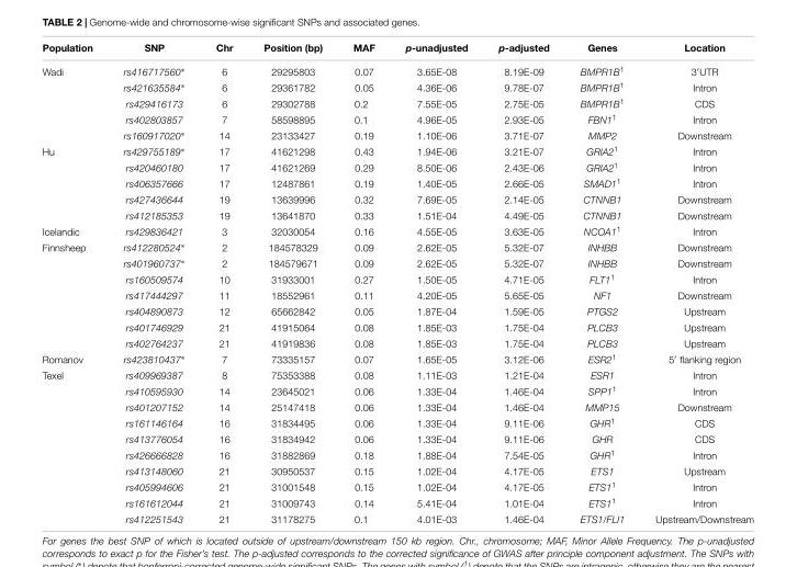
<table><thead><tr><td>Population</td><td>SNP</td><td>Chr</td><td>Position (bp)</td><td>MAF</td><td>p-unadjusted</td><td>p-adjusted</td><td>Genes</td><td>Location</td></tr></thead><tbody><tr><td rowspan="5">Wadi</td><td>rs416717560∗</td><td>6</td><td>29295803</td><td>0.07</td><td>3.65E-08</td><td>8.19E-09</td><td>BMPR1B<sup>1</sup></td><td>3′UTR</td></tr><tr><td>rs421635584∗</td><td>6</td><td>29361782</td><td>0.05</td><td>4.36E-06</td><td>9.78E-07</td><td>BMPR1B<sup>1</sup></td><td>Intron</td></tr><tr><td>rs429416173</td><td>6</td><td>29302788</td><td>0.2</td><td>7.55E-05</td><td>2.75E-05</td><td>BMPR1B<sup>1</sup></td><td>CDS</td></tr><tr><td>rs402803857</td><td>7</td><td>58598895</td><td>0.1</td><td>4.96E-05</td><td>2.93E-05</td><td>FBN1<sup>1</sup></td><td>Intron</td></tr><tr><td>rs160917020∗</td><td>14</td><td>23133427</td><td>0.19</td><td>1.10E-06</td><td>3.71E-07</td><td>MMP2</td><td>Downstream</td></tr><tr><td rowspan="5">Hu</td><td>rs429755189∗</td><td>17</td><td>41621298</td><td>0.43</td><td>1.94E-06</td><td>3.21E-07</td><td>GRIA2<sup>1</sup></td><td>Intron</td></tr><tr><td>rs420460180</td><td>17</td><td>41621269</td><td>0.29</td><td>8.50E-06</td><td>2.43E-06</td><td>GRIA2<sup>1</sup></td><td>Intron</td></tr><tr><td>rs406357666</td><td>17</td><td>12487861</td><td>0.19</td><td>1.40E-05</td><td>2.66E-05</td><td>SMAD1<sup>1</sup></td><td>Intron</td></tr><tr><td>rs427436644</td><td>19</td><td>13639996</td><td>0.32</td><td>7.69E-05</td><td>2.14E-05</td><td>CTNNB1</td><td>Downstream</td></tr><tr><td>rs412185353</td><td>19</td><td>13641870</td><td>0.33</td><td>1.51E-04</td><td>4.49E-05</td><td>CTNNB1</td><td>Downstream</td></tr><tr><td>Icelandic</td><td>rs429836421</td><td>3</td><td>32030054</td><td>0.16</td><td>4.55E-05</td><td>3.63E-05</td><td>NCOA1<sup>1</sup></td><td>Intron</td></tr><tr><td rowspan="7">Finnsheep</td><td>rs412280524∗</td><td>2</td><td>184578329</td><td>0.09</td><td>2.62E-05</td><td>5.32E-07</td><td>INHBB</td><td>Downstream</td></tr><tr><td>rs401960737∗</td><td>2</td><td>184579671</td><td>0.09</td><td>2.62E-05</td><td>5.32E-07</td><td>INHBB</td><td>Downstream</td></tr><tr><td>rs160509574</td><td>10</td><td>31933001</td><td>0.27</td><td>1.50E-05</td><td>4.71E-05</td><td>FLT1<sup>1</sup></td><td>Intron</td></tr><tr><td>rs417444297</td><td>11</td><td>18552961</td><td>0.11</td><td>4.20E-05</td><td>5.65E-05</td><td>NF1</td><td>Downstream</td></tr><tr><td>rs404890873</td><td>12</td><td>65662842</td><td>0.05</td><td>1.87E-04</td><td>1.59E-05</td><td>PTGS2</td><td>Upstream</td></tr><tr><td>rs401746929</td><td>21</td><td>41915064</td><td>0.08</td><td>1.85E-03</td><td>1.75E-04</td><td>PLCB3</td><td>Upstream</td></tr><tr><td>rs402764237</td><td>21</td><td>41919836</td><td>0.08</td><td>1.85E-03</td><td>1.75E-04</td><td>PLCB3</td><td>Upstream</td></tr><tr><td>Romanov</td><td>rs423810437∗</td><td>7</td><td>73335157</td><td>0.07</td><td>1.65E-05</td><td>3.12E-06</td><td>ESR2<sup>1</sup></td><td>5′ flanking region</td></tr><tr><td rowspan="10">Texel</td><td>rs409969387</td><td>8</td><td>75353388</td><td>0.08</td><td>1.11E-03</td><td>1.21E-04</td><td>ESR1</td><td>Intron</td></tr><tr><td>rs410595930</td><td>14</td><td>23645021</td><td>0.06</td><td>1.33E-04</td><td>1.46E-04</td><td>SPP1<sup>1</sup></td><td>Intron</td></tr><tr><td>rs401207152</td><td>14</td><td>25147418</td><td>0.06</td><td>1.33E-04</td><td>1.46E-04</td><td>MMP15</td><td>Downstream</td></tr><tr><td>rs161146164</td><td>16</td><td>31834495</td><td>0.06</td><td>1.33E-04</td><td>9.11E-06</td><td>GHR<sup>1</sup></td><td>CDS</td></tr><tr><td>rs413776054</td><td>16</td><td>31834942</td><td>0.06</td><td>1.33E-04</td><td>9.11E-06</td><td>GHR</td><td>CDS</td></tr><tr><td>rs426666828</td><td>16</td><td>31882869</td><td>0.18</td><td>1.88E-04</td><td>7.54E-05</td><td>GHR<sup>1</sup></td><td>Intron</td></tr><tr><td>rs413148060</td><td>21</td><td>30950537</td><td>0.15</td><td>1.02E-04</td><td>4.17E-05</td><td>ETS1</td><td>Upstream</td></tr><tr><td>rs405994606</td><td>21</td><td>31001548</td><td>0.15</td><td>1.02E-04</td><td>4.17E-05</td><td>ETS1<sup>1</sup></td><td>Intron</td></tr><tr><td>rs161612044</td><td>21</td><td>31009743</td><td>0.14</td><td>5.41E-04</td><td>1.01E-04</td><td>ETS1<sup>1</sup></td><td>Intron</td></tr><tr><td>rs412251543</td><td>21</td><td>31178275</td><td>0.1</td><td>4.01E-03</td><td>1.46E-04</td><td>ETS1/FLI1</td><td>Upstream/Downstream</td></tr></tbody></table>